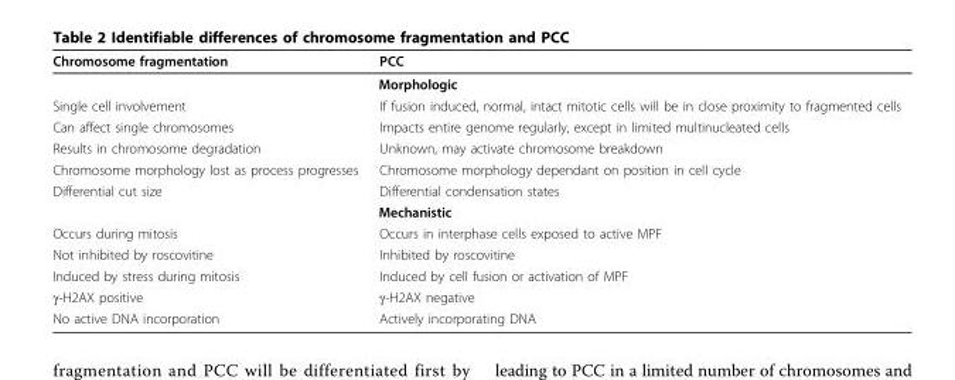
<table><thead><tr><td>Chromosome fragmentation</td><td>PCC</td></tr></thead><tbody><tr><td colspan="2">Morphologic</td></tr><tr><td>Single cell involvement</td><td>If fusion induced, normal, intact mitotic cells will be in close proximity to fragmented cells</td></tr><tr><td>Can affect single chromosomes</td><td>Impacts entire genome regularly, except in limited multinucleated cells</td></tr><tr><td>Results in chromosome degradation</td><td>Unknown, may activate chromosome breakdown</td></tr><tr><td>Chromosome morphology lost as process progresses</td><td>Chromosome morphology dependant on position in cell cycle</td></tr><tr><td>Differential cut size</td><td>Differential condensation states</td></tr><tr><td colspan="2">Mechanistic</td></tr><tr><td>Occurs during mitosis</td><td>Occurs in interphase cells exposed to active MPF</td></tr><tr><td>Not inhibited by roscovitine</td><td>Inhibited by roscovitine</td></tr><tr><td>Induced by stress during mitosis</td><td>Induced by cell fusion or activation of MPF</td></tr><tr><td>γ-H2AX positive</td><td>γ-H2AX negative</td></tr><tr><td>No active DNA incorporation</td><td>Actively incorporating DNA</td></tr></tbody></table>